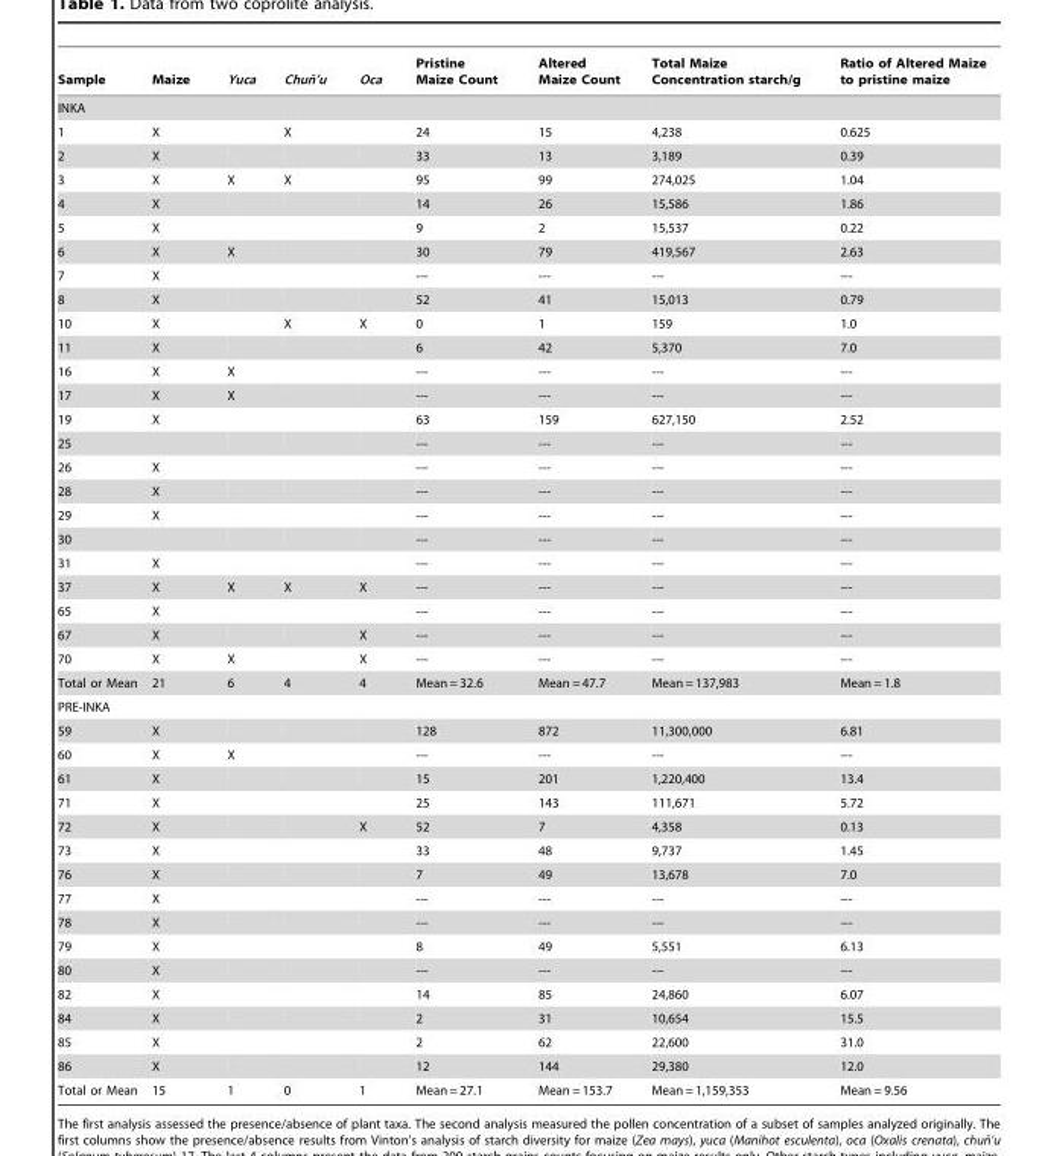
<table><thead><tr><td>Sample</td><td>Maize</td><td>Yuca</td><td>Chun˜’u</td><td>Oca</td><td>Pristine Maize Count</td><td>Altered Maize Count</td><td>Total Maize Concentration starch/g</td><td>Ratio of Altered Maize to pristine maize</td></tr></thead><tbody><tr><td colspan="9">INKA</td></tr><tr><td>1</td><td>X</td><td></td><td>X</td><td></td><td>24</td><td>15</td><td>4,238</td><td>0.625</td></tr><tr><td>2</td><td>X</td><td></td><td></td><td></td><td>33</td><td>13</td><td>3,189</td><td>0.39</td></tr><tr><td>3</td><td>X</td><td>X</td><td>X</td><td></td><td>95</td><td>99</td><td>274,025</td><td>1.04</td></tr><tr><td>4</td><td>X</td><td></td><td></td><td></td><td>14</td><td>26</td><td>15,586</td><td>1.86</td></tr><tr><td>5</td><td>X</td><td></td><td></td><td></td><td>9</td><td>2</td><td>15,537</td><td>0.22</td></tr><tr><td>6</td><td>X</td><td>X</td><td></td><td></td><td>30</td><td>79</td><td>419,567</td><td>2.63</td></tr><tr><td>7</td><td>X</td><td></td><td></td><td></td><td>---</td><td>---</td><td>---</td><td>---</td></tr><tr><td>8</td><td>X</td><td></td><td></td><td></td><td>52</td><td>41</td><td>15,013</td><td>0.79</td></tr><tr><td>10</td><td>X</td><td></td><td>X</td><td>X</td><td>0</td><td>1</td><td>159</td><td>1.0</td></tr><tr><td>11</td><td>X</td><td></td><td></td><td></td><td>6</td><td>42</td><td>5,370</td><td>7.0</td></tr><tr><td>16</td><td>X</td><td>X</td><td></td><td></td><td>---</td><td>---</td><td>---</td><td>---</td></tr><tr><td>17</td><td>X</td><td>X</td><td></td><td></td><td>---</td><td>---</td><td>---</td><td>---</td></tr><tr><td>19</td><td>X</td><td></td><td></td><td></td><td>63</td><td>159</td><td>627,150</td><td>2.52</td></tr><tr><td>25</td><td></td><td></td><td></td><td></td><td>---</td><td>---</td><td>---</td><td>---</td></tr><tr><td>26</td><td>X</td><td></td><td></td><td></td><td>---</td><td>---</td><td>---</td><td>---</td></tr><tr><td>28</td><td>X</td><td></td><td></td><td></td><td>---</td><td>---</td><td>---</td><td>---</td></tr><tr><td>29</td><td>X</td><td></td><td></td><td></td><td>---</td><td>---</td><td>---</td><td>---</td></tr><tr><td>30</td><td></td><td></td><td></td><td></td><td>---</td><td>---</td><td>---</td><td>---</td></tr><tr><td>31</td><td>X</td><td></td><td></td><td></td><td>---</td><td>---</td><td>---</td><td>---</td></tr><tr><td>37</td><td>X</td><td>X</td><td>X</td><td>X</td><td>---</td><td>---</td><td>---</td><td>---</td></tr><tr><td>65</td><td>X</td><td></td><td></td><td></td><td>---</td><td>---</td><td>---</td><td>---</td></tr><tr><td>67</td><td>X</td><td></td><td></td><td>X</td><td>---</td><td>---</td><td>---</td><td>---</td></tr><tr><td>70</td><td>X</td><td>X</td><td></td><td>X</td><td>---</td><td>---</td><td>---</td><td>---</td></tr><tr><td>Total or Mean</td><td>21</td><td>6</td><td>4</td><td>4</td><td>Mean = 32.6</td><td>Mean = 47.7</td><td>Mean = 137,983</td><td>Mean = 1.8</td></tr><tr><td colspan="9">PRE-INKA</td></tr><tr><td>59</td><td>X</td><td></td><td></td><td></td><td>128</td><td>872</td><td>11,300,000</td><td>6.81</td></tr><tr><td>60</td><td>X</td><td>X</td><td></td><td></td><td>---</td><td>---</td><td>---</td><td>---</td></tr><tr><td>61</td><td>X</td><td></td><td></td><td></td><td>15</td><td>201</td><td>1,220,400</td><td>13.4</td></tr><tr><td>71</td><td>X</td><td></td><td></td><td></td><td>25</td><td>143</td><td>111,671</td><td>5.72</td></tr><tr><td>72</td><td>X</td><td></td><td></td><td>X</td><td>52</td><td>7</td><td>4,358</td><td>0.13</td></tr><tr><td>73</td><td>X</td><td></td><td></td><td></td><td>33</td><td>48</td><td>9,737</td><td>1.45</td></tr><tr><td>76</td><td>X</td><td></td><td></td><td></td><td>7</td><td>49</td><td>13,678</td><td>7.0</td></tr><tr><td>77</td><td>X</td><td></td><td></td><td></td><td>---</td><td>---</td><td>---</td><td>---</td></tr><tr><td>78</td><td>X</td><td></td><td></td><td></td><td>---</td><td>---</td><td>---</td><td>---</td></tr><tr><td>79</td><td>X</td><td></td><td></td><td></td><td>8</td><td>49</td><td>5,551</td><td>6.13</td></tr><tr><td>80</td><td>X</td><td></td><td></td><td></td><td>---</td><td>---</td><td>---</td><td>---</td></tr><tr><td>82</td><td>X</td><td></td><td></td><td></td><td>14</td><td>85</td><td>24,860</td><td>6.07</td></tr><tr><td>84</td><td>X</td><td></td><td></td><td></td><td>2</td><td>31</td><td>10,654</td><td>15.5</td></tr><tr><td>85</td><td>X</td><td></td><td></td><td></td><td>2</td><td>62</td><td>22,600</td><td>31.0</td></tr><tr><td>86</td><td>X</td><td></td><td></td><td></td><td>12</td><td>144</td><td>29,380</td><td>12.0</td></tr><tr><td>Total or Mean</td><td>15</td><td>1</td><td>0</td><td>1</td><td>Mean = 27.1</td><td>Mean = 153.7</td><td>Mean = 1,159,353</td><td>Mean = 9.56</td></tr></tbody></table>